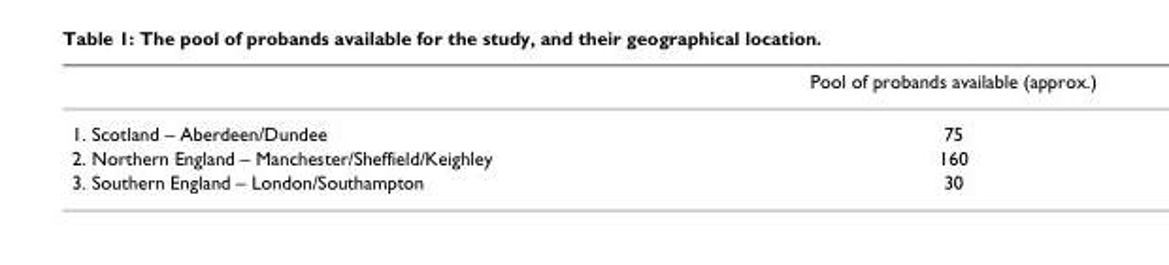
<table><thead><tr><td></td><td>Pool of probands available (approx.)</td></tr></thead><tbody><tr><td>1. Scotland – Aberdeen/Dundee</td><td>75</td></tr><tr><td>2. Northern England – Manchester/Sheffield/Keighley</td><td>160</td></tr><tr><td>3. Southern England – London/Southampton</td><td>30</td></tr></tbody></table>